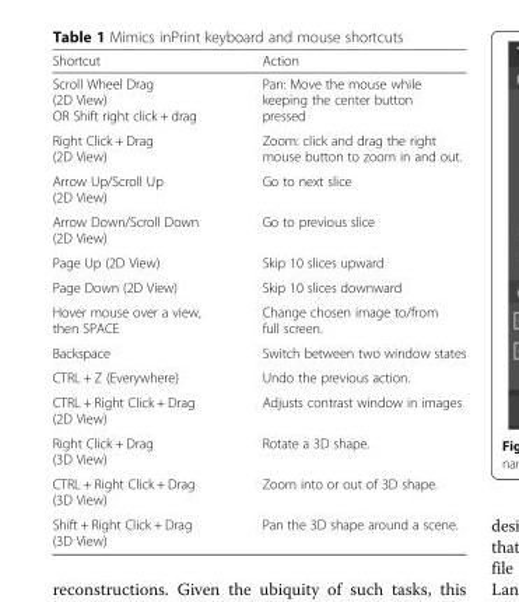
<table><thead><tr><td>Shortcut</td><td>Action</td></tr></thead><tbody><tr><td>Scroll Wheel Drag (2D View) OR Shift right click + drag</td><td>Pan: Move the mouse while keeping the center button pressed</td></tr><tr><td>Right Click + Drag (2D View)</td><td>Zoom: click and drag the right mouse button to zoom in and out.</td></tr><tr><td>Arrow Up/Scroll Up (2D View)</td><td>Go to next slice</td></tr><tr><td>Arrow Down/Scroll Down (2D View)</td><td>Go to previous slice</td></tr><tr><td>Page Up (2D View)</td><td>Skip 10 slices upward</td></tr><tr><td>Page Down (2D View)</td><td>Skip 10 slices downward</td></tr><tr><td>Hover mouse over a view, then SPACE</td><td>Change chosen image to/from full screen.</td></tr><tr><td>Backspace</td><td>Switch between two window states</td></tr><tr><td>CTRL + Z (Everywhere)</td><td>Undo the previous action.</td></tr><tr><td>CTRL + Right Click + Drag (2D View)</td><td>Adjusts contrast window in images</td></tr><tr><td>Right Click + Drag (3D View)</td><td>Rotate a 3D shape.</td></tr><tr><td>CTRL + Right Click + Drag (3D View)</td><td>Zoom into or out of 3D shape.</td></tr><tr><td>Shift + Right Click + Drag (3D View)</td><td>Pan the 3D shape around a scene.</td></tr></tbody></table>